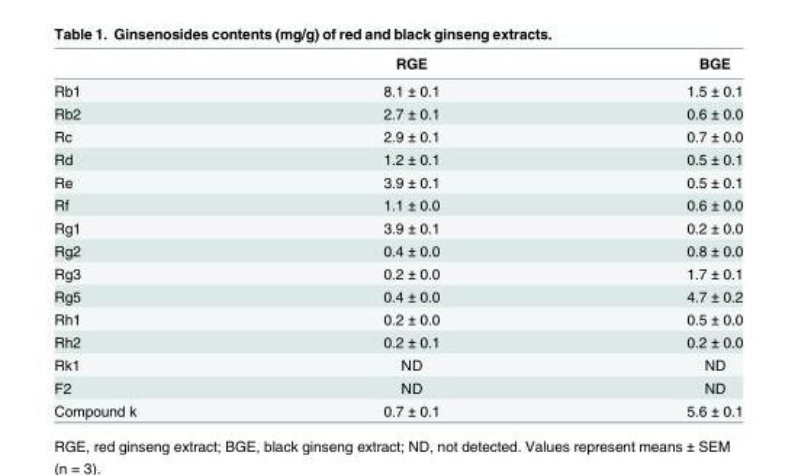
<table><thead><tr><td></td><td>RGE</td><td>BGE</td></tr></thead><tbody><tr><td>Rb1</td><td>8.1 ± 0.1</td><td>1.5 ± 0.1</td></tr><tr><td>Rb2</td><td>2.7 ± 0.1</td><td>0.6 ± 0.0</td></tr><tr><td>Rc</td><td>2.9 ± 0.1</td><td>0.7 ± 0.0</td></tr><tr><td>Rd</td><td>1.2 ± 0.1</td><td>0.5 ± 0.1</td></tr><tr><td>Re</td><td>3.9 ± 0.1</td><td>0.5 ± 0.1</td></tr><tr><td>Rf</td><td>1.1 ± 0.0</td><td>0.6 ± 0.0</td></tr><tr><td>Rg1</td><td>3.9 ± 0.1</td><td>0.2 ± 0.0</td></tr><tr><td>Rg2</td><td>0.4 ± 0.0</td><td>0.8 ± 0.0</td></tr><tr><td>Rg3</td><td>0.2 ± 0.0</td><td>1.7 ± 0.1</td></tr><tr><td>Rg5</td><td>0.4 ± 0.0</td><td>4.7 ± 0.2</td></tr><tr><td>Rh1</td><td>0.2 ± 0.0</td><td>0.5 ± 0.0</td></tr><tr><td>Rh2</td><td>0.2 ± 0.1</td><td>0.2 ± 0.0</td></tr><tr><td>Rk1</td><td>ND</td><td>ND</td></tr><tr><td>F2</td><td>ND</td><td>ND</td></tr><tr><td>Compound k</td><td>0.7 ± 0.1</td><td>5.6 ± 0.1</td></tr></tbody></table>